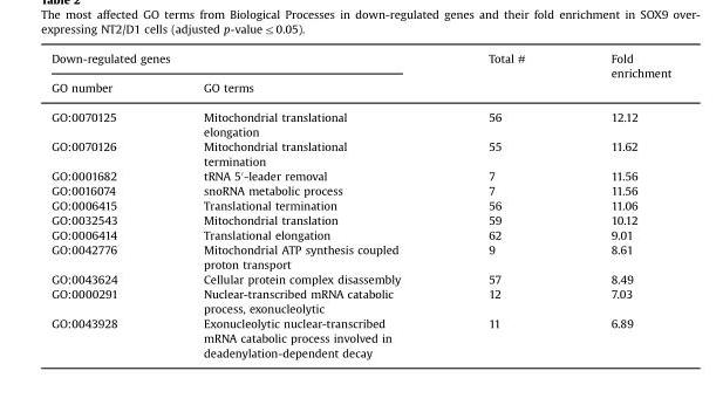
<table><thead><tr><td colspan="2">Down-regulated genes</td><td rowspan="2">Total #</td><td rowspan="2">Fold enrichment</td></tr><tr><td>GO number</td><td>GO terms</td></tr></thead><tbody><tr><td>GO:0070125</td><td>Mitochondrial translational elongation</td><td>56</td><td>12.12</td></tr><tr><td>GO:0070126</td><td>Mitochondrial translational termination</td><td>55</td><td>11.62</td></tr><tr><td>GO:0001682</td><td>tRNA 5′-leader removal</td><td>7</td><td>11.56</td></tr><tr><td>GO:0016074</td><td>snoRNA metabolic process</td><td>7</td><td>11.56</td></tr><tr><td>GO:0006415</td><td>Translational termination</td><td>56</td><td>11.06</td></tr><tr><td>GO:0032543</td><td>Mitochondrial translation</td><td>59</td><td>10.12</td></tr><tr><td>GO:0006414</td><td>Translational elongation</td><td>62</td><td>9.01</td></tr><tr><td>GO:0042776</td><td>Mitochondrial ATP synthesis coupled proton transport</td><td>9</td><td>8.61</td></tr><tr><td>GO:0043624</td><td>Cellular protein complex disassembly</td><td>57</td><td>8.49</td></tr><tr><td>GO:0000291</td><td>Nuclear-transcribed mRNA catabolic process, exonucleolytic</td><td>12</td><td>7.03</td></tr><tr><td>GO:0043928</td><td>Exonucleolytic nuclear-transcribed mRNA catabolic process involved in deadenylation-dependent decay</td><td>11</td><td>6.89</td></tr></tbody></table>